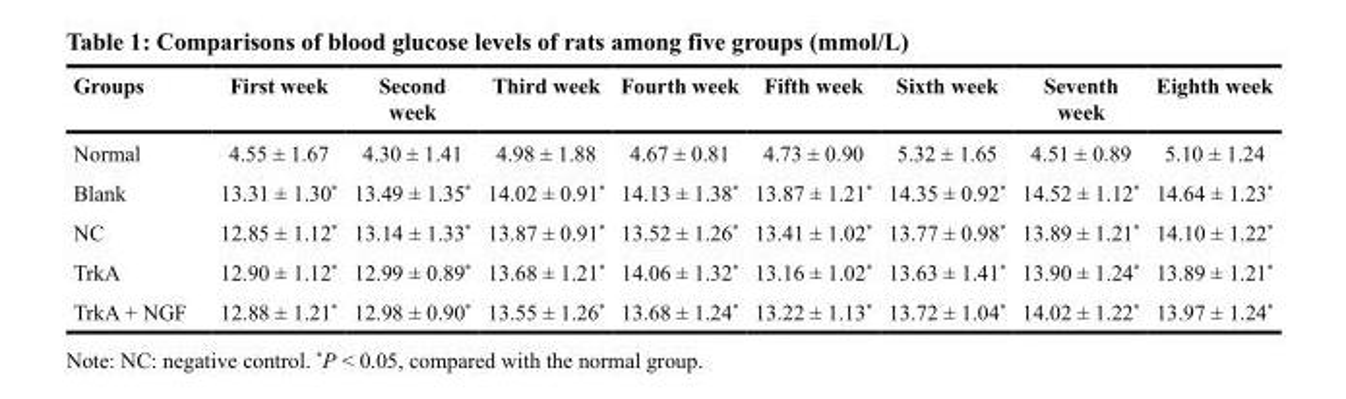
<table><thead><tr><td>Groups</td><td>First week</td><td>Second week</td><td>Third week</td><td>Fourth week</td><td>Fifth week</td><td>Sixth week</td><td>Seventh week</td><td>Eighth week</td></tr></thead><tbody><tr><td>Normal</td><td>4.55 ± 1.67</td><td>4.30 ± 1.41</td><td>4.98 ± 1.88</td><td>4.67 ± 0.81</td><td>4.73 ± 0.90</td><td>5.32 ± 1.65</td><td>4.51 ± 0.89</td><td>5.10 ± 1.24</td></tr><tr><td>Blank</td><td>13.31 ± 1.30*</td><td>13.49 ± 1.35*</td><td>14.02 ± 0.91*</td><td>14.13 ± 1.38*</td><td>13.87 ± 1.21*</td><td>14.35 ± 0.92*</td><td>14.52 ± 1.12*</td><td>14.64 ± 1.23*</td></tr><tr><td>NC</td><td>12.85 ± 1.12*</td><td>13.14 ± 1.33*</td><td>13.87 ± 0.91*</td><td>13.52 ± 1.26*</td><td>13.41 ± 1.02*</td><td>13.77 ± 0.98*</td><td>13.89 ± 1.21*</td><td>14.10 ± 1.22*</td></tr><tr><td>TrkA</td><td>12.90 ± 1.12*</td><td>12.99 ± 0.89*</td><td>13.68 ± 1.21*</td><td>14.06 ± 1.32*</td><td>13.16 ± 1.02*</td><td>13.63 ± 1.41*</td><td>13.90 ± 1.24*</td><td>13.89 ± 1.21*</td></tr><tr><td>TrkA + NGF</td><td>12.88 ± 1.21*</td><td>12.98 ± 0.90*</td><td>13.55 ± 1.26*</td><td>13.68 ± 1.24*</td><td>13.22 ± 1.13*</td><td>13.72 ± 1.04*</td><td>14.02 ± 1.22*</td><td>13.97 ± 1.24*</td></tr></tbody></table>